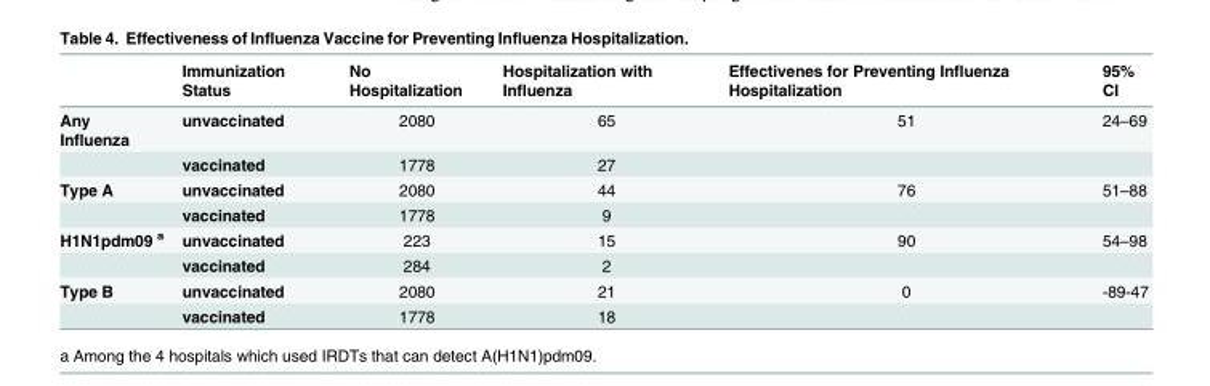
<table><thead><tr><td></td><td>Immunization Status</td><td>No Hospitalization</td><td>Hospitalization with Influenza</td><td>Effectivenes for Preventing Influenza Hospitalization</td><td>95% CI</td></tr></thead><tbody><tr><td rowspan="2">Any Influenza</td><td>unvaccinated</td><td>2080</td><td>65</td><td>51</td><td>24–69</td></tr><tr><td>vaccinated</td><td>1778</td><td>27</td><td></td><td></td></tr><tr><td rowspan="2">Type A</td><td>unvaccinated</td><td>2080</td><td>44</td><td>76</td><td>51–88</td></tr><tr><td>vaccinated</td><td>1778</td><td>9</td><td></td><td></td></tr><tr><td rowspan="2">H1N1pdm09 <sup>a</sup></td><td>unvaccinated</td><td>223</td><td>15</td><td>90</td><td>54–98</td></tr><tr><td>vaccinated</td><td>284</td><td>2</td><td></td><td></td></tr><tr><td rowspan="2">Type B</td><td>unvaccinated</td><td>2080</td><td>21</td><td>0</td><td>-89-47</td></tr><tr><td>vaccinated</td><td>1778</td><td>18</td><td></td><td></td></tr></tbody></table>